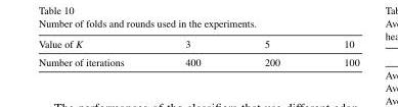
<table><thead><tr><td>Value of K</td><td>3</td><td>5</td><td>10</td></tr></thead><tbody><tr><td>Number of iterations</td><td>400</td><td>200</td><td>100</td></tr></tbody></table>